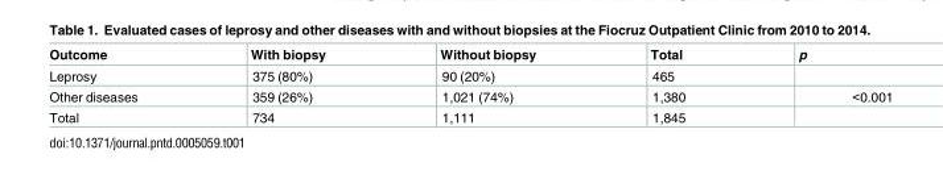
<table><thead><tr><td>Outcome</td><td>With biopsy</td><td>Without biopsy</td><td>Total</td><td>p</td></tr></thead><tbody><tr><td>Leprosy</td><td>375 (80%)</td><td>90 (20%)</td><td>465</td><td></td></tr><tr><td>Other diseases</td><td>359 (26%)</td><td>1,021 (74%)</td><td>1,380</td><td>&lt;0.001</td></tr><tr><td>Total</td><td>734</td><td>1,111</td><td>1,845</td><td></td></tr></tbody></table>